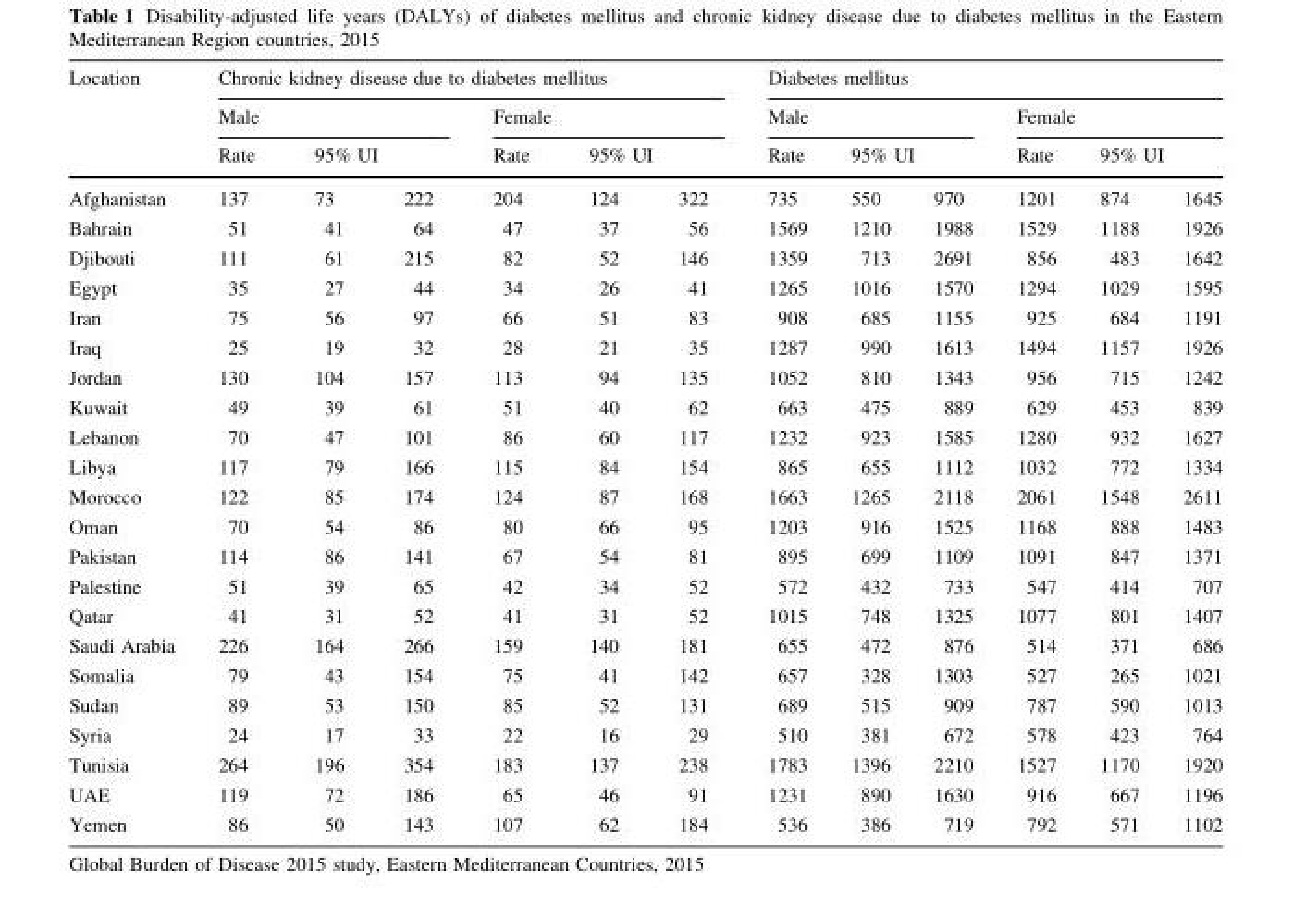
<table><thead><tr><td rowspan="4">Location Afghanistan</td><td colspan="6">Chronic kidney disease due to diabetes mellitus</td><td colspan="6">Diabetes mellitus</td></tr><tr><td colspan="3">Male</td><td colspan="3">Female</td><td colspan="3">Male</td><td colspan="3">Female</td></tr><tr><td rowspan="2">Rate 137</td><td colspan="2">95% UI</td><td rowspan="2">Rate 204</td><td colspan="2">95% UI</td><td rowspan="2">Rate 735</td><td colspan="2">95% UI</td><td rowspan="2">Rate 1201</td><td colspan="2">95% UI</td></tr><tr><td>73</td><td>222</td><td>124</td><td>322</td><td>550</td><td>970</td><td>874</td><td>1645</td></tr></thead><tbody><tr><td>Bahrain</td><td>51</td><td>41</td><td>64</td><td>47</td><td>37</td><td>56</td><td>1569</td><td>1210</td><td>1988</td><td>1529</td><td>1188</td><td>1926</td></tr><tr><td>Djibouti</td><td>111</td><td>61</td><td>215</td><td>82</td><td>52</td><td>146</td><td>1359</td><td>713</td><td>2691</td><td>856</td><td>483</td><td>1642</td></tr><tr><td>Egypt</td><td>35</td><td>27</td><td>44</td><td>34</td><td>26</td><td>41</td><td>1265</td><td>1016</td><td>1570</td><td>1294</td><td>1029</td><td>1595</td></tr><tr><td>Iran</td><td>75</td><td>56</td><td>97</td><td>66</td><td>51</td><td>83</td><td>908</td><td>685</td><td>1155</td><td>925</td><td>684</td><td>1191</td></tr><tr><td>Iraq</td><td>25</td><td>19</td><td>32</td><td>28</td><td>21</td><td>35</td><td>1287</td><td>990</td><td>1613</td><td>1494</td><td>1157</td><td>1926</td></tr><tr><td>Jordan</td><td>130</td><td>104</td><td>157</td><td>113</td><td>94</td><td>135</td><td>1052</td><td>810</td><td>1343</td><td>956</td><td>715</td><td>1242</td></tr><tr><td>Kuwait</td><td>49</td><td>39</td><td>61</td><td>51</td><td>40</td><td>62</td><td>663</td><td>475</td><td>889</td><td>629</td><td>453</td><td>839</td></tr><tr><td>Lebanon</td><td>70</td><td>47</td><td>101</td><td>86</td><td>60</td><td>117</td><td>1232</td><td>923</td><td>1585</td><td>1280</td><td>932</td><td>1627</td></tr><tr><td>Libya</td><td>117</td><td>79</td><td>166</td><td>115</td><td>84</td><td>154</td><td>865</td><td>655</td><td>1112</td><td>1032</td><td>772</td><td>1334</td></tr><tr><td>Morocco</td><td>122</td><td>85</td><td>174</td><td>124</td><td>87</td><td>168</td><td>1663</td><td>1265</td><td>2118</td><td>2061</td><td>1548</td><td>2611</td></tr><tr><td>Oman</td><td>70</td><td>54</td><td>86</td><td>80</td><td>66</td><td>95</td><td>1203</td><td>916</td><td>1525</td><td>1168</td><td>888</td><td>1483</td></tr><tr><td>Pakistan</td><td>114</td><td>86</td><td>141</td><td>67</td><td>54</td><td>81</td><td>895</td><td>699</td><td>1109</td><td>1091</td><td>847</td><td>1371</td></tr><tr><td>Palestine</td><td>51</td><td>39</td><td>65</td><td>42</td><td>34</td><td>52</td><td>572</td><td>432</td><td>733</td><td>547</td><td>414</td><td>707</td></tr><tr><td>Qatar</td><td>41</td><td>31</td><td>52</td><td>41</td><td>31</td><td>52</td><td>1015</td><td>748</td><td>1325</td><td>1077</td><td>801</td><td>1407</td></tr><tr><td>Saudi Arabia</td><td>226</td><td>164</td><td>266</td><td>159</td><td>140</td><td>181</td><td>655</td><td>472</td><td>876</td><td>514</td><td>371</td><td>686</td></tr><tr><td>Somalia</td><td>79</td><td>43</td><td>154</td><td>75</td><td>41</td><td>142</td><td>657</td><td>328</td><td>1303</td><td>527</td><td>265</td><td>1021</td></tr><tr><td>Sudan</td><td>89</td><td>53</td><td>150</td><td>85</td><td>52</td><td>131</td><td>689</td><td>515</td><td>909</td><td>787</td><td>590</td><td>1013</td></tr><tr><td>Syria</td><td>24</td><td>17</td><td>33</td><td>22</td><td>16</td><td>29</td><td>510</td><td>381</td><td>672</td><td>578</td><td>423</td><td>764</td></tr><tr><td>Tunisia</td><td>264</td><td>196</td><td>354</td><td>183</td><td>137</td><td>238</td><td>1783</td><td>1396</td><td>2210</td><td>1527</td><td>1170</td><td>1920</td></tr><tr><td>UAE</td><td>119</td><td>72</td><td>186</td><td>65</td><td>46</td><td>91</td><td>1231</td><td>890</td><td>1630</td><td>916</td><td>667</td><td>1196</td></tr><tr><td>Yemen</td><td>86</td><td>50</td><td>143</td><td>107</td><td>62</td><td>184</td><td>536</td><td>386</td><td>719</td><td>792</td><td>571</td><td>1102</td></tr></tbody></table>